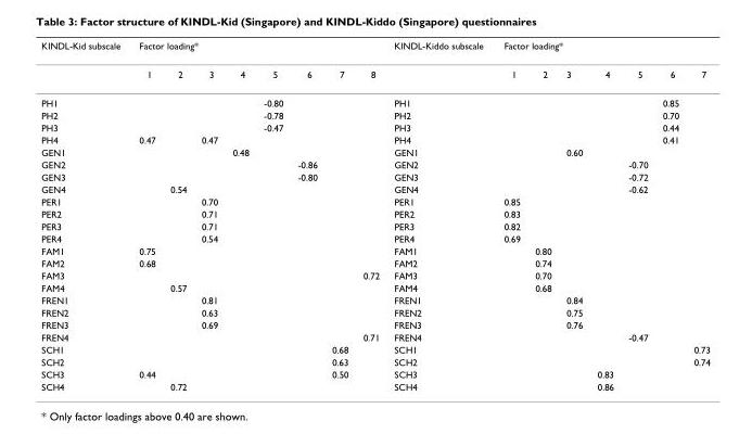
<table><thead><tr><td rowspan="2">KINDL-Kid subscale</td><td colspan="8">Factor loading*</td><td rowspan="2">KINDL-Kiddo subscale</td><td colspan="7">Factor loading*</td></tr><tr><td>1</td><td>2</td><td>3</td><td>4</td><td>5</td><td>6</td><td>7</td><td>8</td><td>1</td><td>2</td><td>3</td><td>4</td><td>5</td><td>6</td><td>7</td></tr></thead><tbody><tr><td>PH1</td><td></td><td></td><td></td><td></td><td>-0.80</td><td></td><td></td><td></td><td>PH1</td><td></td><td></td><td></td><td></td><td></td><td>0.85</td><td></td></tr><tr><td>PH2</td><td></td><td></td><td></td><td></td><td>-0.78</td><td></td><td></td><td></td><td>PH2</td><td></td><td></td><td></td><td></td><td></td><td>0.70</td><td></td></tr><tr><td>PH3</td><td></td><td></td><td></td><td></td><td>-0.47</td><td></td><td></td><td></td><td>PH3</td><td></td><td></td><td></td><td></td><td></td><td>0.44</td><td></td></tr><tr><td>PH4</td><td>0.47</td><td></td><td>0.47</td><td></td><td></td><td></td><td></td><td></td><td>PH4</td><td></td><td></td><td></td><td></td><td></td><td>0.41</td><td></td></tr><tr><td>GEN1</td><td></td><td></td><td></td><td>0.48</td><td></td><td></td><td></td><td></td><td>GEN1</td><td></td><td></td><td>0.60</td><td></td><td></td><td></td><td></td></tr><tr><td>GEN2</td><td></td><td></td><td></td><td></td><td></td><td>-0.86</td><td></td><td></td><td>GEN2</td><td></td><td></td><td></td><td></td><td>-0.70</td><td></td><td></td></tr><tr><td>GEN3</td><td></td><td></td><td></td><td></td><td></td><td>-0.80</td><td></td><td></td><td>GEN3</td><td></td><td></td><td></td><td></td><td>-0.72</td><td></td><td></td></tr><tr><td>GEN4</td><td></td><td>0.54</td><td></td><td></td><td></td><td></td><td></td><td></td><td>GEN4</td><td></td><td></td><td></td><td></td><td>-0.62</td><td></td><td></td></tr><tr><td>PER1</td><td></td><td></td><td>0.70</td><td></td><td></td><td></td><td></td><td></td><td>PER1</td><td>0.85</td><td></td><td></td><td></td><td></td><td></td><td></td></tr><tr><td>PER2</td><td></td><td></td><td>0.71</td><td></td><td></td><td></td><td></td><td></td><td>PER2</td><td>0.83</td><td></td><td></td><td></td><td></td><td></td><td></td></tr><tr><td>PER3</td><td></td><td></td><td>0.71</td><td></td><td></td><td></td><td></td><td></td><td>PER3</td><td>0.82</td><td></td><td></td><td></td><td></td><td></td><td></td></tr><tr><td>PER4</td><td></td><td></td><td>0.54</td><td></td><td></td><td></td><td></td><td></td><td>PER4</td><td>0.69</td><td></td><td></td><td></td><td></td><td></td><td></td></tr><tr><td>FAM1</td><td>0.75</td><td></td><td></td><td></td><td></td><td></td><td></td><td></td><td>FAM1</td><td></td><td>0.80</td><td></td><td></td><td></td><td></td><td></td></tr><tr><td>FAM2</td><td>0.68</td><td></td><td></td><td></td><td></td><td></td><td></td><td></td><td>FAM2</td><td></td><td>0.74</td><td></td><td></td><td></td><td></td><td></td></tr><tr><td>FAM3</td><td></td><td></td><td></td><td></td><td></td><td></td><td></td><td>0.72</td><td>FAM3</td><td></td><td>0.70</td><td></td><td></td><td></td><td></td><td></td></tr><tr><td>FAM4</td><td></td><td>0.57</td><td></td><td></td><td></td><td></td><td></td><td></td><td>FAM4</td><td></td><td>0.68</td><td></td><td></td><td></td><td></td><td></td></tr><tr><td>FREN1</td><td></td><td></td><td>0.81</td><td></td><td></td><td></td><td></td><td></td><td>FREN1</td><td></td><td></td><td>0.84</td><td></td><td></td><td></td><td></td></tr><tr><td>FREN2</td><td></td><td></td><td>0.63</td><td></td><td></td><td></td><td></td><td></td><td>FREN2</td><td></td><td></td><td>0.75</td><td></td><td></td><td></td><td></td></tr><tr><td>FREN3</td><td></td><td></td><td>0.69</td><td></td><td></td><td></td><td></td><td></td><td>FREN3</td><td></td><td></td><td>0.76</td><td></td><td></td><td></td><td></td></tr><tr><td>FREN4</td><td></td><td></td><td></td><td></td><td></td><td></td><td></td><td>0.71</td><td>FREN4</td><td></td><td></td><td></td><td></td><td>-0.47</td><td></td><td></td></tr><tr><td>SCH1</td><td></td><td></td><td></td><td></td><td></td><td></td><td>0.68</td><td></td><td>SCH1</td><td></td><td></td><td></td><td></td><td></td><td></td><td>0.73</td></tr><tr><td>SCH2</td><td></td><td></td><td></td><td></td><td></td><td></td><td>0.63</td><td></td><td>SCH2</td><td></td><td></td><td></td><td></td><td></td><td></td><td>0.74</td></tr><tr><td>SCH3</td><td>0.44</td><td></td><td></td><td></td><td></td><td></td><td>0.50</td><td></td><td>SCH3</td><td></td><td></td><td></td><td>0.83</td><td></td><td></td><td></td></tr><tr><td>SCH4</td><td></td><td>0.72</td><td></td><td></td><td></td><td></td><td></td><td></td><td>SCH4</td><td></td><td></td><td></td><td>0.86</td><td></td><td></td><td></td></tr></tbody></table>